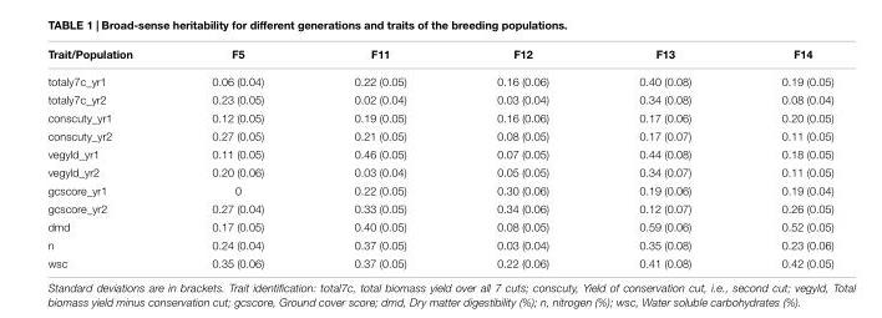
<table><thead><tr><td>Trait/Population</td><td>F5</td><td>F11</td><td>F12</td><td>F13</td><td>F14</td></tr></thead><tbody><tr><td>totaly7c_yr1</td><td>0.06 (0.04)</td><td>0.22 (0.05)</td><td>0.16 (0.06)</td><td>0.40 (0.08)</td><td>0.19 (0.05)</td></tr><tr><td>totaly7c_yr2</td><td>0.23 (0.05)</td><td>0.02 (0.04)</td><td>0.03 (0.04)</td><td>0.34 (0.08)</td><td>0.08 (0.04)</td></tr><tr><td>conscuty_yr1</td><td>0.12 (0.05)</td><td>0.19 (0.05)</td><td>0.16 (0.06)</td><td>0.17 (0.06)</td><td>0.20 (0.05)</td></tr><tr><td>conscuty_yr2</td><td>0.27 (0.05)</td><td>0.21 (0.05)</td><td>0.08 (0.05)</td><td>0.17 (0.07)</td><td>0.11 (0.05)</td></tr><tr><td>vegyld_yr1</td><td>0.11 (0.05)</td><td>0.46 (0.05)</td><td>0.07 (0.05)</td><td>0.44 (0.08)</td><td>0.18 (0.05)</td></tr><tr><td>vegyld_yr2</td><td>0.20 (0.06)</td><td>0.03 (0.04)</td><td>0.05 (0.05)</td><td>0.34 (0.07)</td><td>0.11 (0.05)</td></tr><tr><td>gcscore_yr1</td><td>0</td><td>0.22 (0.05)</td><td>0.30 (0.06)</td><td>0.19 (0.06)</td><td>0.19 (0.04)</td></tr><tr><td>gcscore_yr2</td><td>0.27 (0.04)</td><td>0.33 (0.05)</td><td>0.34 (0.06)</td><td>0.12 (0.07)</td><td>0.26 (0.05)</td></tr><tr><td>dmd</td><td>0.17 (0.05)</td><td>0.40 (0.05)</td><td>0.08 (0.05)</td><td>0.59 (0.06)</td><td>0.52 (0.05)</td></tr><tr><td>n</td><td>0.24 (0.04)</td><td>0.37 (0.05)</td><td>0.03 (0.04)</td><td>0.35 (0.08)</td><td>0.23 (0.06)</td></tr><tr><td>wsc</td><td>0.35 (0.06)</td><td>0.37 (0.05)</td><td>0.22 (0.06)</td><td>0.41 (0.08)</td><td>0.42 (0.05)</td></tr></tbody></table>